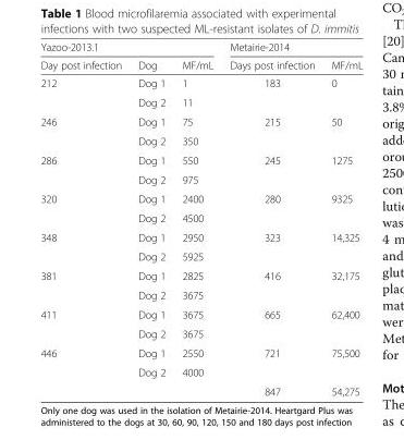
<table><thead><tr><td colspan="3">Yazoo-2013.1</td><td colspan="2">Metairie-2014</td></tr><tr><td>Day post infection</td><td>Dog</td><td>MF/mL</td><td>Days post infection</td><td>MF/mL</td></tr></thead><tbody><tr><td rowspan="2">212</td><td>Dog 1</td><td>1</td><td rowspan="2">183</td><td rowspan="2">0</td></tr><tr><td>Dog 2</td><td>11</td></tr><tr><td rowspan="2">246</td><td>Dog 1</td><td>75</td><td rowspan="2">215</td><td rowspan="2">50</td></tr><tr><td>Dog 2</td><td>350</td></tr><tr><td rowspan="2">286</td><td>Dog 1</td><td>550</td><td rowspan="2">245</td><td rowspan="2">1275</td></tr><tr><td>Dog 2</td><td>975</td></tr><tr><td rowspan="2">320</td><td>Dog 1</td><td>2400</td><td rowspan="2">280</td><td rowspan="2">9325</td></tr><tr><td>Dog 2</td><td>4500</td></tr><tr><td rowspan="2">348</td><td>Dog 1</td><td>2950</td><td rowspan="2">323</td><td rowspan="2">14,325</td></tr><tr><td>Dog 2</td><td>5925</td></tr><tr><td rowspan="2">381</td><td>Dog 1</td><td>2825</td><td rowspan="2">416</td><td rowspan="2">32,175</td></tr><tr><td>Dog 2</td><td>3675</td></tr><tr><td rowspan="2">411</td><td>Dog 1</td><td>3675</td><td rowspan="2">665</td><td rowspan="2">62,400</td></tr><tr><td>Dog 2</td><td>3675</td></tr><tr><td rowspan="3">446</td><td>Dog 1</td><td>2550</td><td rowspan="2">721</td><td rowspan="2">75,500</td></tr><tr><td>Dog 2</td><td>4000</td></tr><tr><td></td><td></td><td>847</td><td>54,275</td></tr></tbody></table>